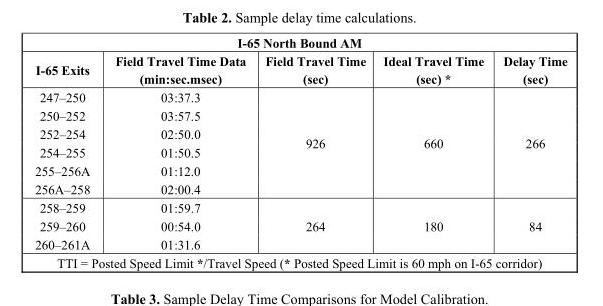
<table><thead><tr><td colspan="5">I-65 North Bound AM</td></tr><tr><td>I-65 Exits</td><td>Field Travel Time Data (min:sec.msec)</td><td>Field Travel Time (sec)</td><td>Ideal Travel Time (sec) *</td><td>Delay Time (sec)</td></tr></thead><tbody><tr><td>247–250</td><td>03:37.3</td><td rowspan="6">926</td><td rowspan="6">660</td><td rowspan="6">266</td></tr><tr><td>250–252</td><td>03:57.5</td></tr><tr><td>252–254</td><td>02:50.0</td></tr><tr><td>254–255</td><td>01:50.5</td></tr><tr><td>255–256A</td><td>01:12.0</td></tr><tr><td>256A–258</td><td>02:00.4</td></tr><tr><td>258–259</td><td>01:59.7</td><td rowspan="3">264</td><td rowspan="3">180</td><td rowspan="3">84</td></tr><tr><td>259–260</td><td>00:54.0</td></tr><tr><td>260–261A</td><td>01:31.6</td></tr><tr><td colspan="5">TTI = Posted Speed Limit */Travel Speed (* Posted Speed Limit is 60 mph on I-65 corridor)</td></tr></tbody></table>